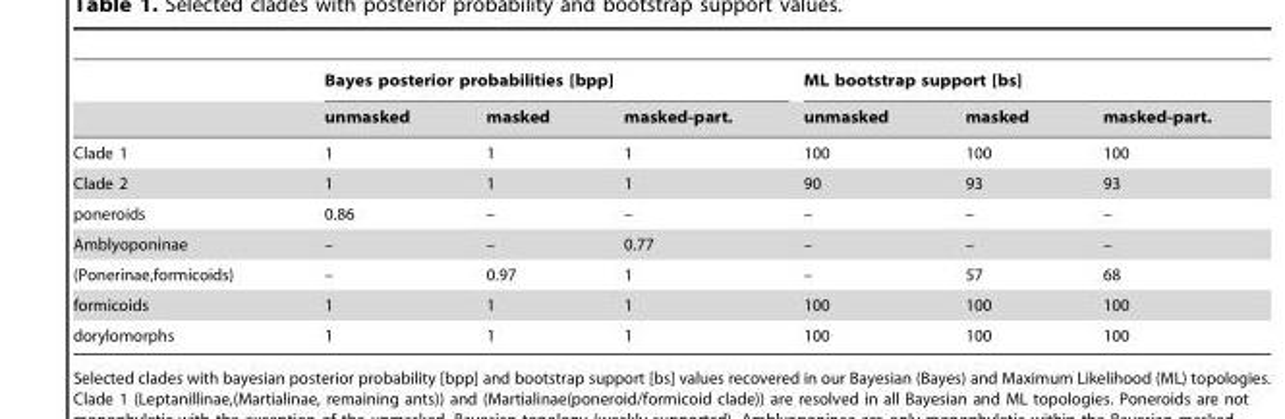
<table><thead><tr><td rowspan="2"></td><td colspan="3">Bayes posterior probabilities [bpp]</td><td colspan="3">ML bootstrap support [bs]</td></tr><tr><td>unmasked</td><td>masked</td><td>masked-part.</td><td>unmasked</td><td>masked</td><td>masked-part.</td></tr></thead><tbody><tr><td>Clade 1</td><td>1</td><td>1</td><td>1</td><td>100</td><td>100</td><td>100</td></tr><tr><td>Clade 2</td><td>1</td><td>1</td><td>1</td><td>90</td><td>93</td><td>93</td></tr><tr><td>poneroids</td><td>0.86</td><td>–</td><td>–</td><td>–</td><td>–</td><td>–</td></tr><tr><td>Amblyoponinae</td><td>–</td><td>–</td><td>0.77</td><td>–</td><td>–</td><td>–</td></tr><tr><td>(Ponerinae,formicoids)</td><td>–</td><td>0.97</td><td>1</td><td>–</td><td>57</td><td>68</td></tr><tr><td>formicoids</td><td>1</td><td>1</td><td>1</td><td>100</td><td>100</td><td>100</td></tr><tr><td>dorylomorphs</td><td>1</td><td>1</td><td>1</td><td>100</td><td>100</td><td>100</td></tr></tbody></table>